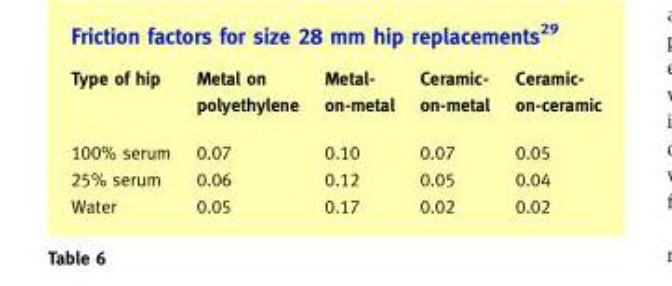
<table><thead><tr><td>Type of hip</td><td>Metal on polyethylene</td><td>Metal- on-metal</td><td>Ceramic- on-metal</td><td>Ceramic- on-ceramic</td></tr></thead><tbody><tr><td>100% serum</td><td>0.07</td><td>0.10</td><td>0.07</td><td>0.05</td></tr><tr><td>25% serum</td><td>0.06</td><td>0.12</td><td>0.05</td><td>0.04</td></tr><tr><td>Water</td><td>0.05</td><td>0.17</td><td>0.02</td><td>0.02</td></tr></tbody></table>